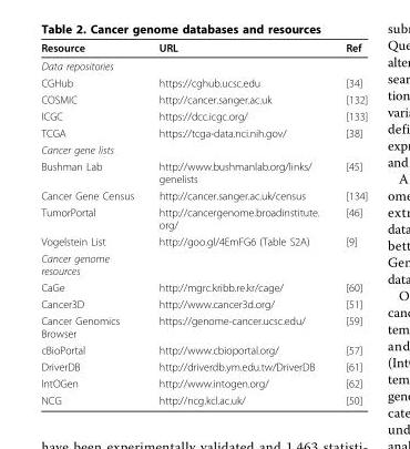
<table><thead><tr><td>Resource</td><td>URL</td><td>Ref</td></tr></thead><tbody><tr><td colspan="3">Data repositories</td></tr><tr><td>CGHub</td><td>https://cghub.ucsc.edu</td><td>[34]</td></tr><tr><td>COSMIC</td><td>http://cancer.sanger.ac.uk</td><td>[132]</td></tr><tr><td>ICGC</td><td>https://dcc.icgc.org/</td><td>[133]</td></tr><tr><td>TCGA</td><td>https://tcga-data.nci.nih.gov/</td><td>[38]</td></tr><tr><td colspan="3">Cancer gene lists</td></tr><tr><td>Bushman Lab</td><td>http://www.bushmanlab.org/links/ genelists</td><td>[45]</td></tr><tr><td>Cancer Gene Census</td><td>http://cancer.sanger.ac.uk/census</td><td>[134]</td></tr><tr><td>TumorPortal</td><td>http://cancergenome.broadinstitute. org/</td><td>[46]</td></tr><tr><td>Vogelstein List</td><td>http://goo.gl/4EmFG6 (Table S2A)</td><td>[9]</td></tr><tr><td colspan="3">Cancer genome resources</td></tr><tr><td>CaGe</td><td>http://mgrc.kribb.re.kr/cage/</td><td>[60]</td></tr><tr><td>Cancer3D</td><td>http://www.cancer3d.org/</td><td>[51]</td></tr><tr><td>Cancer Genomics Browser</td><td>https://genome-cancer.ucsc.edu/</td><td>[59]</td></tr><tr><td>cBioPortal</td><td>http://www.cbioportal.org/</td><td>[57]</td></tr><tr><td>DriverDB</td><td>http://driverdb.ym.edu.tw/DriverDB</td><td>[61]</td></tr><tr><td>IntOGen</td><td>http://www.intogen.org/</td><td>[62]</td></tr><tr><td>NCG</td><td>http://ncg.kcl.ac.uk/</td><td>[50]</td></tr></tbody></table>